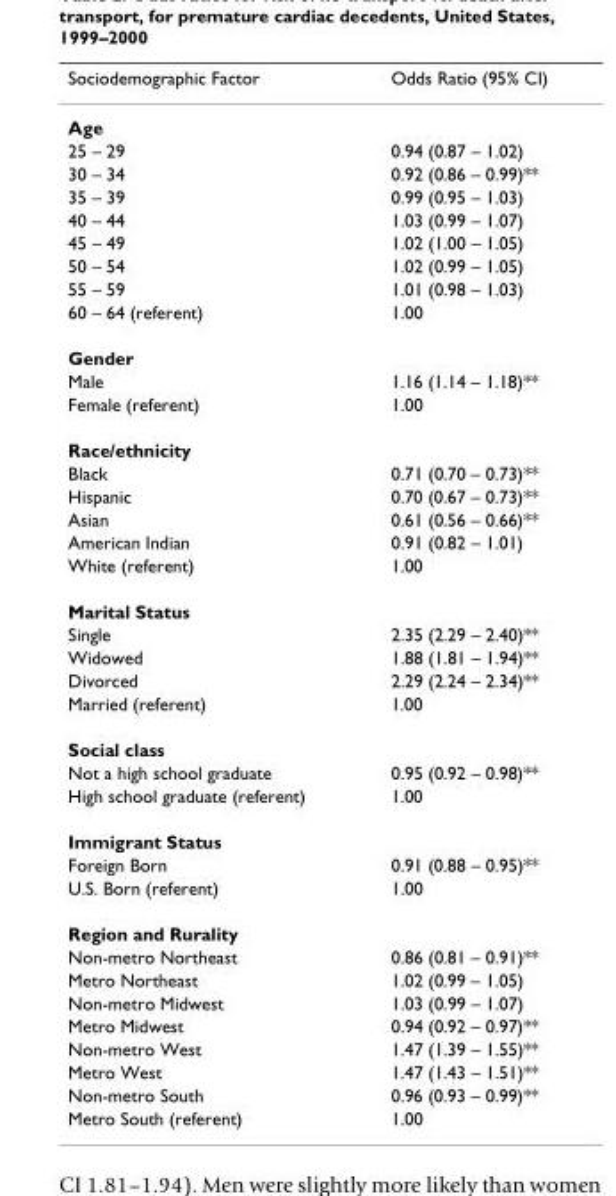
<table><thead><tr><td>Sociodemographic Factor</td><td>Odds Ratio (95% CI)</td></tr></thead><tbody><tr><td colspan="2">Age</td></tr><tr><td>25 – 29</td><td>0.94 (0.87 – 1.02)</td></tr><tr><td>30 – 34</td><td>0.92 (0.86 – 0.99)**</td></tr><tr><td>35 – 39</td><td>0.99 (0.95 – 1.03)</td></tr><tr><td>40 – 44</td><td>1.03 (0.99 – 1.07)</td></tr><tr><td>45 – 49</td><td>1.02 (1.00 – 1.05)</td></tr><tr><td>50 – 54</td><td>1.02 (0.99 – 1.05)</td></tr><tr><td>55 – 59</td><td>1.01 (0.98 – 1.03)</td></tr><tr><td>60 – 64 (referent)</td><td>1.00</td></tr><tr><td colspan="2">Gender</td></tr><tr><td>Male</td><td>1.16 (1.14 – 1.18)**</td></tr><tr><td>Female (referent)</td><td>1.00</td></tr><tr><td colspan="2">Race/ethnicity</td></tr><tr><td>Black</td><td>0.71 (0.70 – 0.73)**</td></tr><tr><td>Hispanic</td><td>0.70 (0.67 – 0.73)**</td></tr><tr><td>Asian</td><td>0.61 (0.56 – 0.66)**</td></tr><tr><td>American Indian</td><td>0.91 (0.82 – 1.01)</td></tr><tr><td>White (referent)</td><td>1.00</td></tr><tr><td colspan="2">Marital Status</td></tr><tr><td>Single</td><td>2.35 (2.29 – 2.40)**</td></tr><tr><td>Widowed</td><td>1.88 (1.81 – 1.94)**</td></tr><tr><td>Divorced</td><td>2.29 (2.24 – 2.34)**</td></tr><tr><td>Married (referent)</td><td>1.00</td></tr><tr><td colspan="2">Social class</td></tr><tr><td>Not a high school graduate</td><td>0.95 (0.92 – 0.98)**</td></tr><tr><td>High school graduate (referent)</td><td>1.00</td></tr><tr><td colspan="2">Immigrant Status</td></tr><tr><td>Foreign Born</td><td>0.91 (0.88 – 0.95)**</td></tr><tr><td>U.S. Born (referent)</td><td>1.00</td></tr><tr><td colspan="2">Region and Rurality</td></tr><tr><td>Non-metro Northeast</td><td>0.86 (0.81 – 0.91)**</td></tr><tr><td>Metro Northeast</td><td>1.02 (0.99 – 1.05)</td></tr><tr><td>Non-metro Midwest</td><td>1.03 (0.99 – 1.07)</td></tr><tr><td>Metro Midwest</td><td>0.94 (0.92 – 0.97)**</td></tr><tr><td>Non-metro West</td><td>1.47 (1.39 – 1.55)**</td></tr><tr><td>Metro West</td><td>1.47 (1.43 – 1.51)**</td></tr><tr><td>Non-metro South</td><td>0.96 (0.93 – 0.99)**</td></tr><tr><td>Metro South (referent)</td><td>1.00</td></tr></tbody></table>